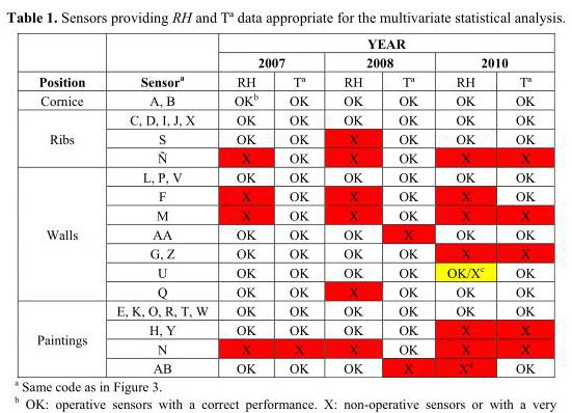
<table><thead><tr><td rowspan="3">Position</td><td rowspan="3">Sensor<sup>a</sup></td><td colspan="6">YEAR</td></tr><tr><td colspan="2">2007</td><td colspan="2">2008</td><td colspan="2">2010</td></tr><tr><td>RH</td><td>T<sup>ª</sup></td><td>RH</td><td>T<sup>ª</sup></td><td>RH</td><td>T<sup>ª</sup></td></tr></thead><tbody><tr><td>Cornice</td><td>A, B</td><td>OK<sup>b</sup></td><td>OK</td><td>OK</td><td>OK</td><td>OK</td><td>OK</td></tr><tr><td rowspan="3">Ribs</td><td>C, D, I, J, X</td><td>OK</td><td>OK</td><td>OK</td><td>OK</td><td>OK</td><td>OK</td></tr><tr><td>S</td><td>OK</td><td>OK</td><td>X</td><td>OK</td><td>OK</td><td>OK</td></tr><tr><td>Ñ</td><td>X</td><td>OK</td><td>X</td><td>OK</td><td>X</td><td>X</td></tr><tr><td rowspan="7">Walls</td><td>L, P, V</td><td>OK</td><td>OK</td><td>OK</td><td>OK</td><td>OK</td><td>OK</td></tr><tr><td>F</td><td>X</td><td>OK</td><td>X</td><td>OK</td><td>X</td><td>OK</td></tr><tr><td>M</td><td>X</td><td>OK</td><td>X</td><td>OK</td><td>X</td><td>X</td></tr><tr><td>AA</td><td>OK</td><td>OK</td><td>OK</td><td>X</td><td>OK</td><td>OK</td></tr><tr><td>G, Z</td><td>OK</td><td>OK</td><td>OK</td><td>OK</td><td>X</td><td>X</td></tr><tr><td>U</td><td>OK</td><td>OK</td><td>OK</td><td>OK</td><td>OK/X<sup>c</sup></td><td>OK</td></tr><tr><td>Q</td><td>OK</td><td>OK</td><td>X</td><td>OK</td><td>OK</td><td>OK</td></tr><tr><td rowspan="4">Paintings</td><td>E, K, O, R, T, W</td><td>OK</td><td>OK</td><td>OK</td><td>OK</td><td>OK</td><td>OK</td></tr><tr><td>H, Y</td><td>OK</td><td>OK</td><td>OK</td><td>OK</td><td>X</td><td>X</td></tr><tr><td>N</td><td>X</td><td>X</td><td>X</td><td>OK</td><td>X</td><td>X</td></tr><tr><td>AB</td><td>OK</td><td>OK</td><td>OK</td><td>X</td><td>X<sup>d</sup></td><td>OK</td></tr></tbody></table>